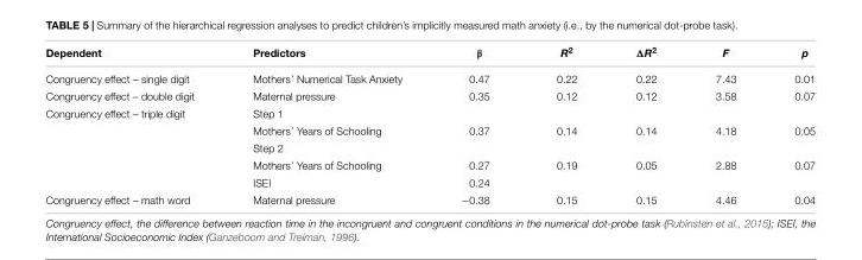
<table><thead><tr><td>Dependent</td><td>Predictors</td><td>β</td><td>R<sup>2</sup></td><td>ΔR<sup>2</sup></td><td>F</td><td>p</td></tr></thead><tbody><tr><td>Congruency effect – single digit</td><td>Mothers’ Numerical Task Anxiety</td><td>0.47</td><td>0.22</td><td>0.22</td><td>7.43</td><td>0.01</td></tr><tr><td>Congruency effect – double digit</td><td>Maternal pressure</td><td>0.35</td><td>0.12</td><td>0.12</td><td>3.58</td><td>0.07</td></tr><tr><td rowspan="5">Congruency effect – triple digit</td><td>Step 1</td><td></td><td></td><td></td><td></td><td></td></tr><tr><td>Mothers’ Years of Schooling</td><td>0.37</td><td>0.14</td><td>0.14</td><td>4.18</td><td>0.05</td></tr><tr><td>Step 2</td><td></td><td></td><td></td><td></td><td></td></tr><tr><td>Mothers’ Years of Schooling</td><td>0.27</td><td>0.19</td><td>0.05</td><td>2.88</td><td>0.07</td></tr><tr><td>ISEI</td><td>0.24</td><td></td><td></td><td></td><td></td></tr><tr><td>Congruency effect – math word</td><td>Maternal pressure</td><td>−0.38</td><td>0.15</td><td>0.15</td><td>4.46</td><td>0.04</td></tr></tbody></table>